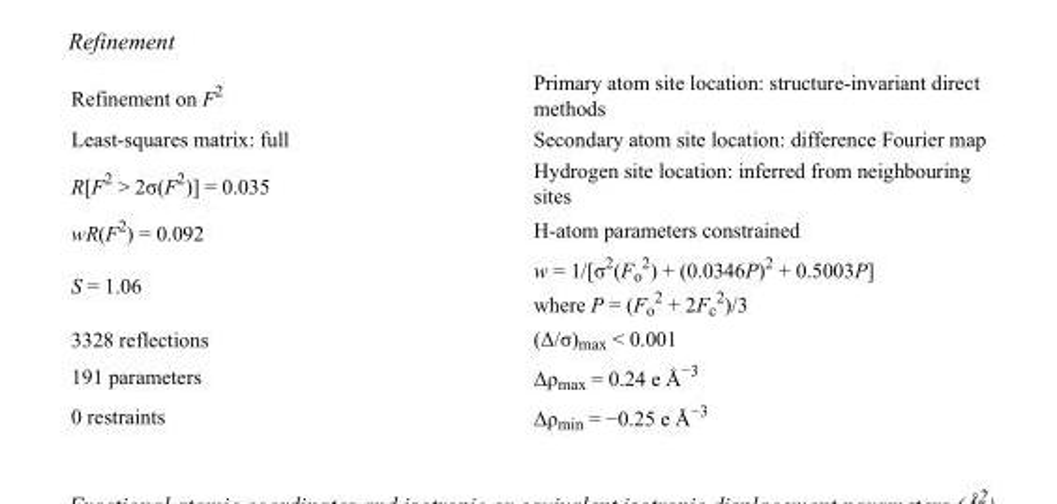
<table><tbody><tr><td>Refinement on F<sup>2</sup></td><td>Primary atom site location: structure-invariant direct methods</td></tr><tr><td>Least-squares matrix: full</td><td>Secondary atom site location: difference Fourier map</td></tr><tr><td>R[F<sup>2</sup> &gt; 2σ(F<sup>2</sup>)] = 0.035</td><td>Hydrogen site location: inferred from neighbouring sites</td></tr><tr><td>wR(F<sup>2</sup>) = 0.092</td><td>H-atom parameters constrained</td></tr><tr><td>S = 1.06</td><td>w = 1/[σ<sup>2</sup>(F<sub>o</sub> <sup>2</sup>) + (0.0346P)<sup>2</sup> + 0.5003P] where P = (F<sub>o</sub> <sup>2</sup> + 2F<sub>c</sub> <sup>2</sup>)/3</td></tr><tr><td>3328 reflections</td><td>(Δ/σ)<sub>max</sub> &lt; 0.001</td></tr><tr><td>191 parameters</td><td>Δρ<sub>max</sub> = 0.24 e Å<sup>−3</sup></td></tr><tr><td>0 restraints</td><td>Δρ<sub>min</sub> = −0.25 e Å<sup>−3</sup></td></tr></tbody></table>